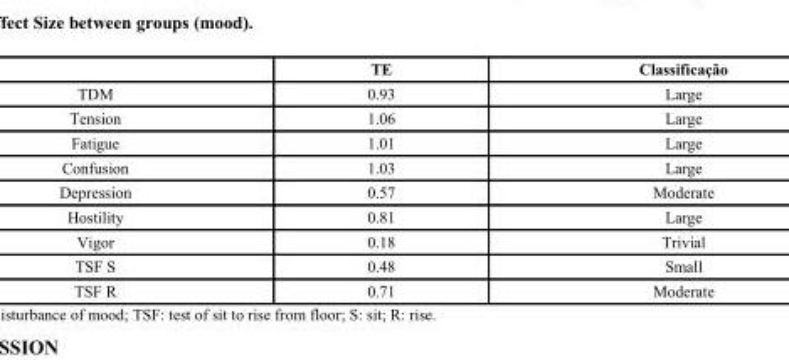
<table><thead><tr><td></td><td>TE</td><td>Classificação</td></tr></thead><tbody><tr><td>TDM</td><td>0.93</td><td>Large</td></tr><tr><td>Tension</td><td>1.06</td><td>Large</td></tr><tr><td>Fatigue</td><td>1.01</td><td>Large</td></tr><tr><td>Confusion</td><td>1.03</td><td>Large</td></tr><tr><td>Depression</td><td>0.57</td><td>Moderate</td></tr><tr><td>Hostility</td><td>0.81</td><td>Large</td></tr><tr><td>Vigor</td><td>0.18</td><td>Trivial</td></tr><tr><td>TSF S</td><td>0.48</td><td>Small</td></tr><tr><td>TSF R</td><td>0.71</td><td>Moderate</td></tr></tbody></table>